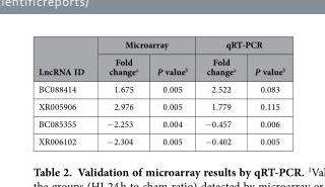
<table><thead><tr><td rowspan="2">LncRNA ID</td><td colspan="2">Microarray</td><td colspan="2">qRT-PCR</td></tr><tr><td>Fold change<sup>a</sup></td><td>P value<sup>b</sup></td><td>Fold change<sup>a</sup></td><td>P value<sup>b</sup></td></tr></thead><tbody><tr><td>BC088414</td><td>1.675</td><td>0.005</td><td>2.522</td><td>0.083</td></tr><tr><td>XR005906</td><td>2.976</td><td>0.005</td><td>1.779</td><td>0.115</td></tr><tr><td>BC085355</td><td>−2.253</td><td>0.004</td><td>−0.457</td><td>0.006</td></tr><tr><td>XR006102</td><td>−2.304</td><td>0.005</td><td>−0.402</td><td>0.005</td></tr></tbody></table>